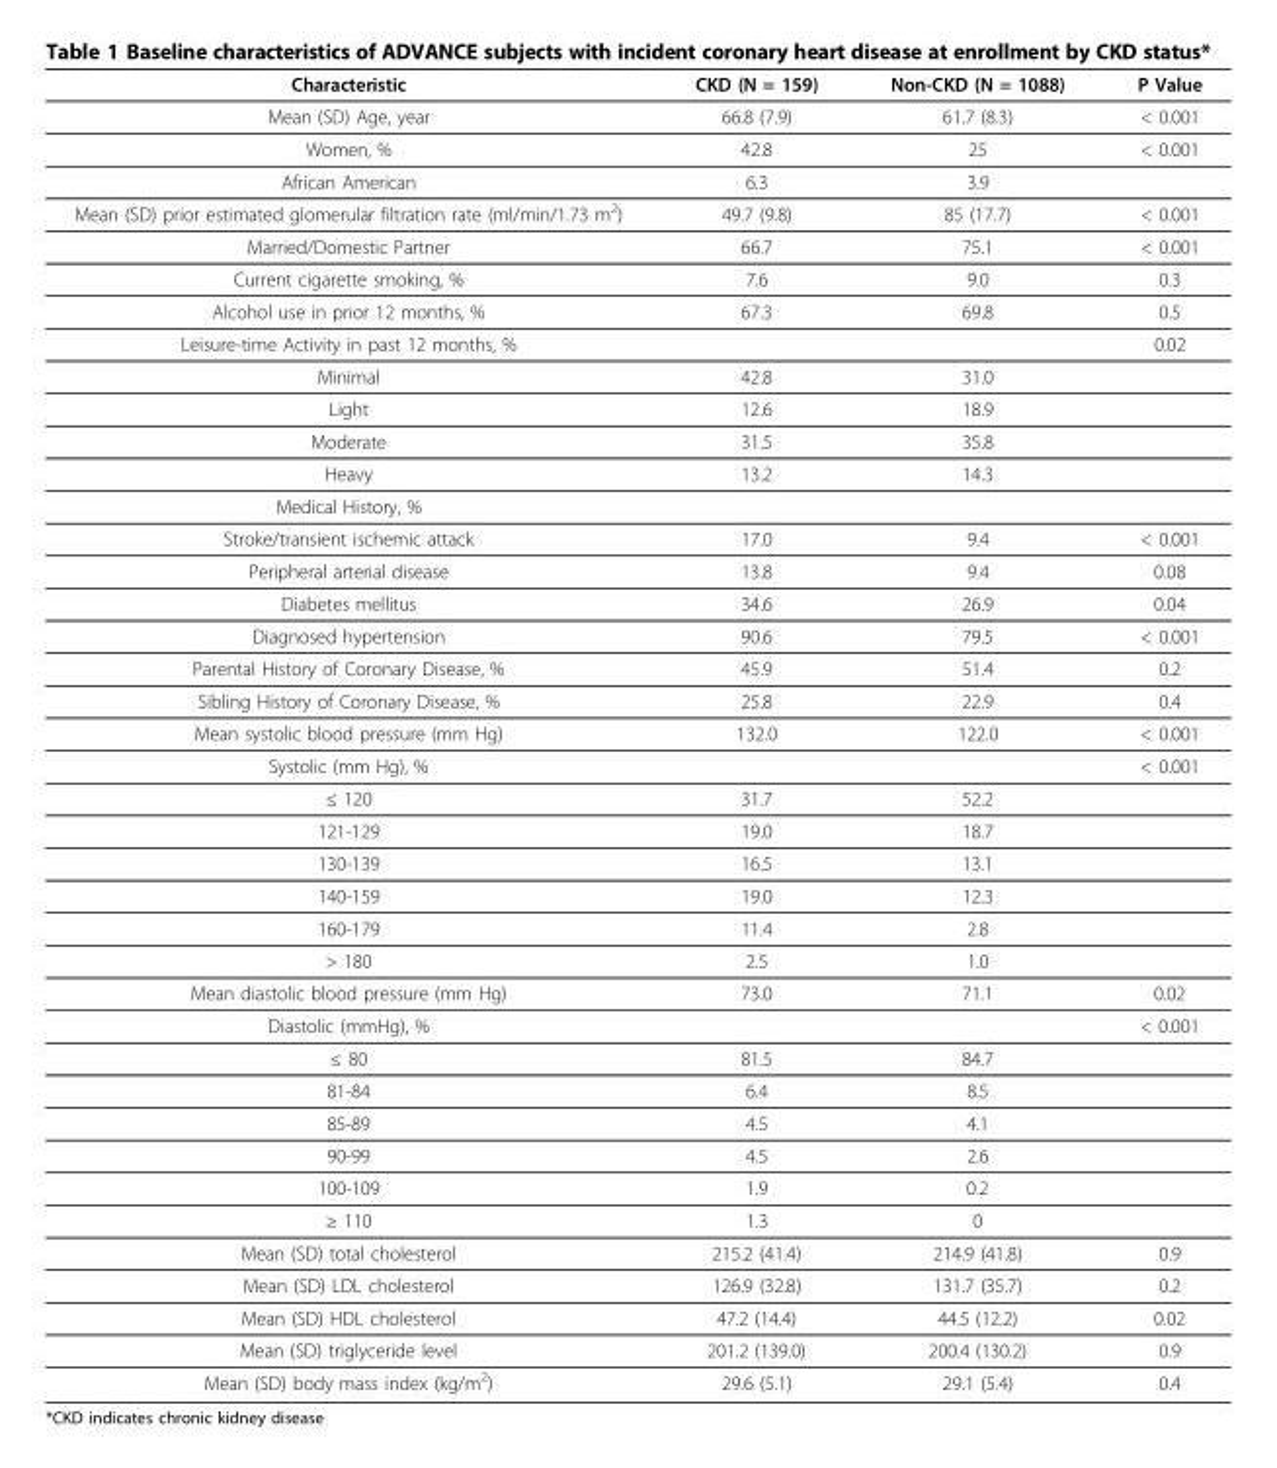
<table><thead><tr><td>Characteristic</td><td>CKD (N = 159)</td><td>Non-CKD (N = 1088)</td><td>P Value</td></tr></thead><tbody><tr><td>Mean (SD) Age, year</td><td>66.8 (7.9)</td><td>61.7 (8.3)</td><td>&lt; 0.001</td></tr><tr><td>Women, %</td><td>42.8</td><td>25</td><td>&lt; 0.001</td></tr><tr><td>African American</td><td>6.3</td><td>3.9</td><td></td></tr><tr><td>Mean (SD) prior estimated glomerular filtration rate (ml/min/1.73 m<sup>2</sup>)</td><td>49.7 (9.8)</td><td>85 (17.7)</td><td>&lt; 0.001</td></tr><tr><td>Married/Domestic Partner</td><td>66.7</td><td>75.1</td><td>&lt; 0.001</td></tr><tr><td>Current cigarette smoking, %</td><td>7.6</td><td>9.0</td><td>0.3</td></tr><tr><td>Alcohol use in prior 12 months, %</td><td>67.3</td><td>69.8</td><td>0.5</td></tr><tr><td>Leisure-time Activity in past 12 months, %</td><td></td><td></td><td>0.02</td></tr><tr><td>Minimal</td><td>42.8</td><td>31.0</td><td></td></tr><tr><td>Light</td><td>12.6</td><td>18.9</td><td></td></tr><tr><td>Moderate</td><td>31.5</td><td>35.8</td><td></td></tr><tr><td>Heavy</td><td>13.2</td><td>14.3</td><td></td></tr><tr><td colspan="4">Medical History, %</td></tr><tr><td>Stroke/transient ischemic attack</td><td>17.0</td><td>9.4</td><td>&lt; 0.001</td></tr><tr><td>Peripheral arterial disease</td><td>13.8</td><td>9.4</td><td>0.08</td></tr><tr><td>Diabetes mellitus</td><td>34.6</td><td>26.9</td><td>0.04</td></tr><tr><td>Diagnosed hypertension</td><td>90.6</td><td>79.5</td><td>&lt; 0.001</td></tr><tr><td>Parental History of Coronary Disease, %</td><td>45.9</td><td>51.4</td><td>0.2</td></tr><tr><td>Sibling History of Coronary Disease, %</td><td>25.8</td><td>22.9</td><td>0.4</td></tr><tr><td>Mean systolic blood pressure (mm Hg)</td><td>132.0</td><td>122.0</td><td>&lt; 0.001</td></tr><tr><td>Systolic (mm Hg), %</td><td></td><td></td><td>&lt; 0.001</td></tr><tr><td>≤ 120</td><td>31.7</td><td>52.2</td><td></td></tr><tr><td>121-129</td><td>19.0</td><td>18.7</td><td></td></tr><tr><td>130-139</td><td>16.5</td><td>13.1</td><td></td></tr><tr><td>140-159</td><td>19.0</td><td>12.3</td><td></td></tr><tr><td>160-179</td><td>11.4</td><td>2.8</td><td></td></tr><tr><td>&gt; 180</td><td>2.5</td><td>1.0</td><td></td></tr><tr><td>Mean diastolic blood pressure (mm Hg)</td><td>73.0</td><td>71.1</td><td>0.02</td></tr><tr><td>Diastolic (mmHg), %</td><td></td><td></td><td>&lt; 0.001</td></tr><tr><td>≤ 80</td><td>81.5</td><td>84.7</td><td></td></tr><tr><td>81-84</td><td>6.4</td><td>8.5</td><td></td></tr><tr><td>85-89</td><td>4.5</td><td>4.1</td><td></td></tr><tr><td>90-99</td><td>4.5</td><td>2.6</td><td></td></tr><tr><td>100-109</td><td>1.9</td><td>0.2</td><td></td></tr><tr><td>≥ 110</td><td>1.3</td><td>0</td><td></td></tr><tr><td>Mean (SD) total cholesterol</td><td>215.2 (41.4)</td><td>214.9 (41.8)</td><td>0.9</td></tr><tr><td>Mean (SD) LDL cholesterol</td><td>126.9 (32.8)</td><td>131.7 (35.7)</td><td>0.2</td></tr><tr><td>Mean (SD) HDL cholesterol</td><td>47.2 (14.4)</td><td>44.5 (12.2)</td><td>0.02</td></tr><tr><td>Mean (SD) triglyceride level</td><td>201.2 (139.0)</td><td>200.4 (130.2)</td><td>0.9</td></tr><tr><td>Mean (SD) body mass index (kg/m<sup>2</sup>)</td><td>29.6 (5.1)</td><td>29.1 (5.4)</td><td>0.4</td></tr></tbody></table>